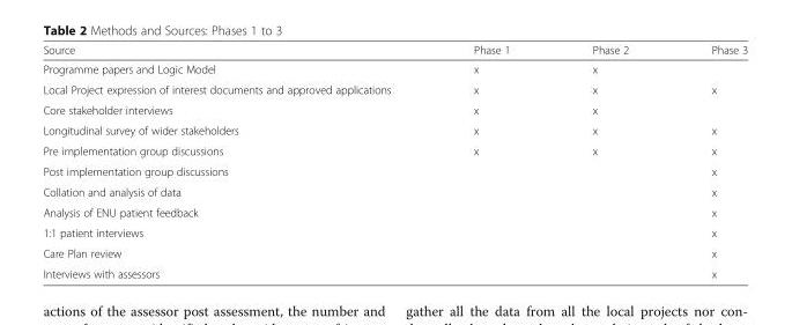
<table><thead><tr><td>Source</td><td>Phase 1</td><td>Phase 2</td><td>Phase 3</td></tr></thead><tbody><tr><td>Programme papers and Logic Model</td><td>x</td><td>x</td><td></td></tr><tr><td>Local Project expression of interest documents and approved applications</td><td>x</td><td>x</td><td>x</td></tr><tr><td>Core stakeholder interviews</td><td>x</td><td>x</td><td></td></tr><tr><td>Longitudinal survey of wider stakeholders</td><td>x</td><td>x</td><td>x</td></tr><tr><td>Pre implementation group discussions</td><td>x</td><td>x</td><td>x</td></tr><tr><td>Post implementation group discussions</td><td></td><td></td><td>x</td></tr><tr><td>Collation and analysis of data</td><td></td><td></td><td>x</td></tr><tr><td>Analysis of ENU patient feedback</td><td></td><td></td><td>x</td></tr><tr><td>1:1 patient interviews</td><td></td><td></td><td>x</td></tr><tr><td>Care Plan review</td><td></td><td></td><td>x</td></tr><tr><td>Interviews with assessors</td><td></td><td></td><td>x</td></tr></tbody></table>